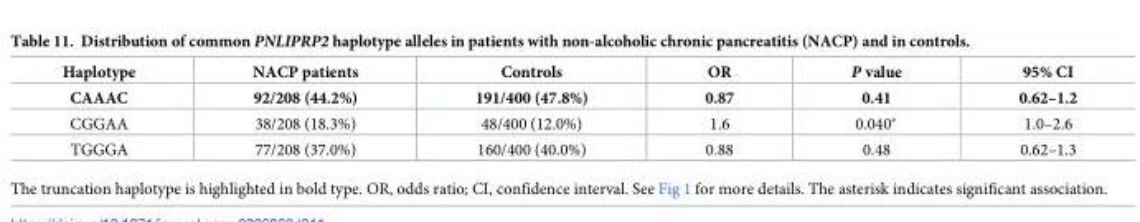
<table><thead><tr><td>Haplotype</td><td>NACP patients</td><td>Controls</td><td>OR</td><td>P value</td><td>95% CI</td></tr></thead><tbody><tr><td>CAAAC</td><td>92/208 (44.2%)</td><td>191/400 (47.8%)</td><td>0.87</td><td>0.41</td><td>0.62–1.2</td></tr><tr><td>CGGAA</td><td>38/208 (18.3%)</td><td>48/400 (12.0%)</td><td>1.6</td><td>0.040*</td><td>1.0–2.6</td></tr><tr><td>TGGGA</td><td>77/208 (37.0%)</td><td>160/400 (40.0%)</td><td>0.88</td><td>0.48</td><td>0.62–1.3</td></tr></tbody></table>